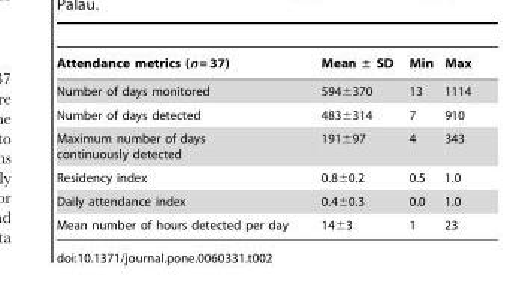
<table><thead><tr><td>Attendance metrics (n = 37)</td><td>Mean ± SD</td><td>Min</td><td>Max</td></tr></thead><tbody><tr><td>Number of days monitored</td><td>594±370</td><td>13</td><td>1114</td></tr><tr><td>Number of days detected</td><td>483±314</td><td>7</td><td>910</td></tr><tr><td>Maximum number of days continuously detected</td><td>191±97</td><td>4</td><td>343</td></tr><tr><td>Residency index</td><td>0.8±0.2</td><td>0.5</td><td>1.0</td></tr><tr><td>Daily attendance index</td><td>0.4±0.3</td><td>0.0</td><td>1.0</td></tr><tr><td>Mean number of hours detected per day</td><td>14±3</td><td>1</td><td>23</td></tr></tbody></table>